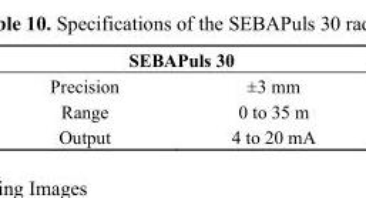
<table><thead><tr><td colspan="2">SEBAPuls 30</td></tr><tr><td>Precision</td><td>±3 mm</td></tr></thead><tbody><tr><td>Range</td><td>0 to 35 m</td></tr><tr><td>Output</td><td>4 to 20 mA</td></tr></tbody></table>